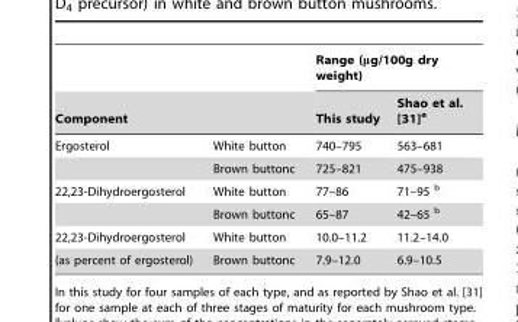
<table><thead><tr><td></td><td></td><td colspan="2">Range (μg/100g dry weight)</td></tr><tr><td colspan="2">Component</td><td>This study</td><td>Shao et al. [31]a</td></tr></thead><tbody><tr><td rowspan="2">Ergosterol</td><td>White button</td><td>740–795</td><td>563–681</td></tr><tr><td>Brown buttonc</td><td>725–821</td><td>475–938</td></tr><tr><td rowspan="2">22,23-Dihydroergosterol</td><td>White button</td><td>77–86</td><td>71–95 b</td></tr><tr><td>Brown buttonc</td><td>65–87</td><td>42–65 b</td></tr><tr><td>22,23-Dihydroergosterol</td><td>White button</td><td>10.0–11.2</td><td>11.2–14.0</td></tr><tr><td>(as percent of ergosterol)</td><td>Brown buttonc</td><td>7.9–12.0</td><td>6.9–10.5</td></tr></tbody></table>